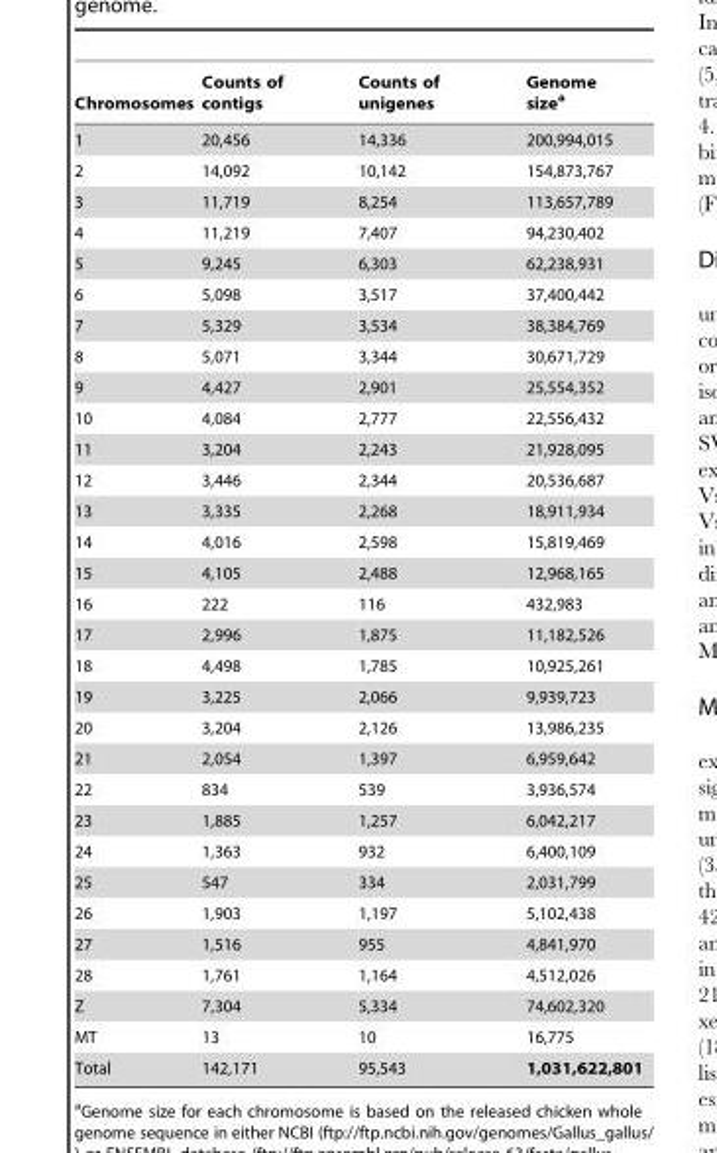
<table><thead><tr><td>Chromosomes</td><td>Counts of contigs</td><td>Counts of unigenes</td><td>Genome size<sup>a</sup></td></tr></thead><tbody><tr><td>1</td><td>20,456</td><td>14,336</td><td>200,994,015</td></tr><tr><td>2</td><td>14,092</td><td>10,142</td><td>154,873,767</td></tr><tr><td>3</td><td>11,719</td><td>8,254</td><td>113,657,789</td></tr><tr><td>4</td><td>11,219</td><td>7,407</td><td>94,230,402</td></tr><tr><td>5</td><td>9,245</td><td>6,303</td><td>62,238,931</td></tr><tr><td>6</td><td>5,098</td><td>3,517</td><td>37,400,442</td></tr><tr><td>7</td><td>5,329</td><td>3,534</td><td>38,384,769</td></tr><tr><td>8</td><td>5,071</td><td>3,344</td><td>30,671,729</td></tr><tr><td>9</td><td>4,427</td><td>2,901</td><td>25,554,352</td></tr><tr><td>10</td><td>4,084</td><td>2,777</td><td>22,556,432</td></tr><tr><td>11</td><td>3,204</td><td>2,243</td><td>21,928,095</td></tr><tr><td>12</td><td>3,446</td><td>2,344</td><td>20,536,687</td></tr><tr><td>13</td><td>3,335</td><td>2,268</td><td>18,911,934</td></tr><tr><td>14</td><td>4,016</td><td>2,598</td><td>15,819,469</td></tr><tr><td>15</td><td>4,105</td><td>2,488</td><td>12,968,165</td></tr><tr><td>16</td><td>222</td><td>116</td><td>432,983</td></tr><tr><td>17</td><td>2,996</td><td>1,875</td><td>11,182,526</td></tr><tr><td>18</td><td>4,498</td><td>1,785</td><td>10,925,261</td></tr><tr><td>19</td><td>3,225</td><td>2,066</td><td>9,939,723</td></tr><tr><td>20</td><td>3,204</td><td>2,126</td><td>13,986,235</td></tr><tr><td>21</td><td>2,054</td><td>1,397</td><td>6,959,642</td></tr><tr><td>22</td><td>834</td><td>539</td><td>3,936,574</td></tr><tr><td>23</td><td>1,885</td><td>1,257</td><td>6,042,217</td></tr><tr><td>24</td><td>1,363</td><td>932</td><td>6,400,109</td></tr><tr><td>25</td><td>547</td><td>334</td><td>2,031,799</td></tr><tr><td>26</td><td>1,903</td><td>1,197</td><td>5,102,438</td></tr><tr><td>27</td><td>1,516</td><td>955</td><td>4,841,970</td></tr><tr><td>28</td><td>1,761</td><td>1,164</td><td>4,512,026</td></tr><tr><td>Z</td><td>7,304</td><td>5,334</td><td>74,602,320</td></tr><tr><td>MT</td><td>13</td><td>10</td><td>16,775</td></tr><tr><td>Total</td><td>142,171</td><td>95,543</td><td>1,031,622,801</td></tr></tbody></table>